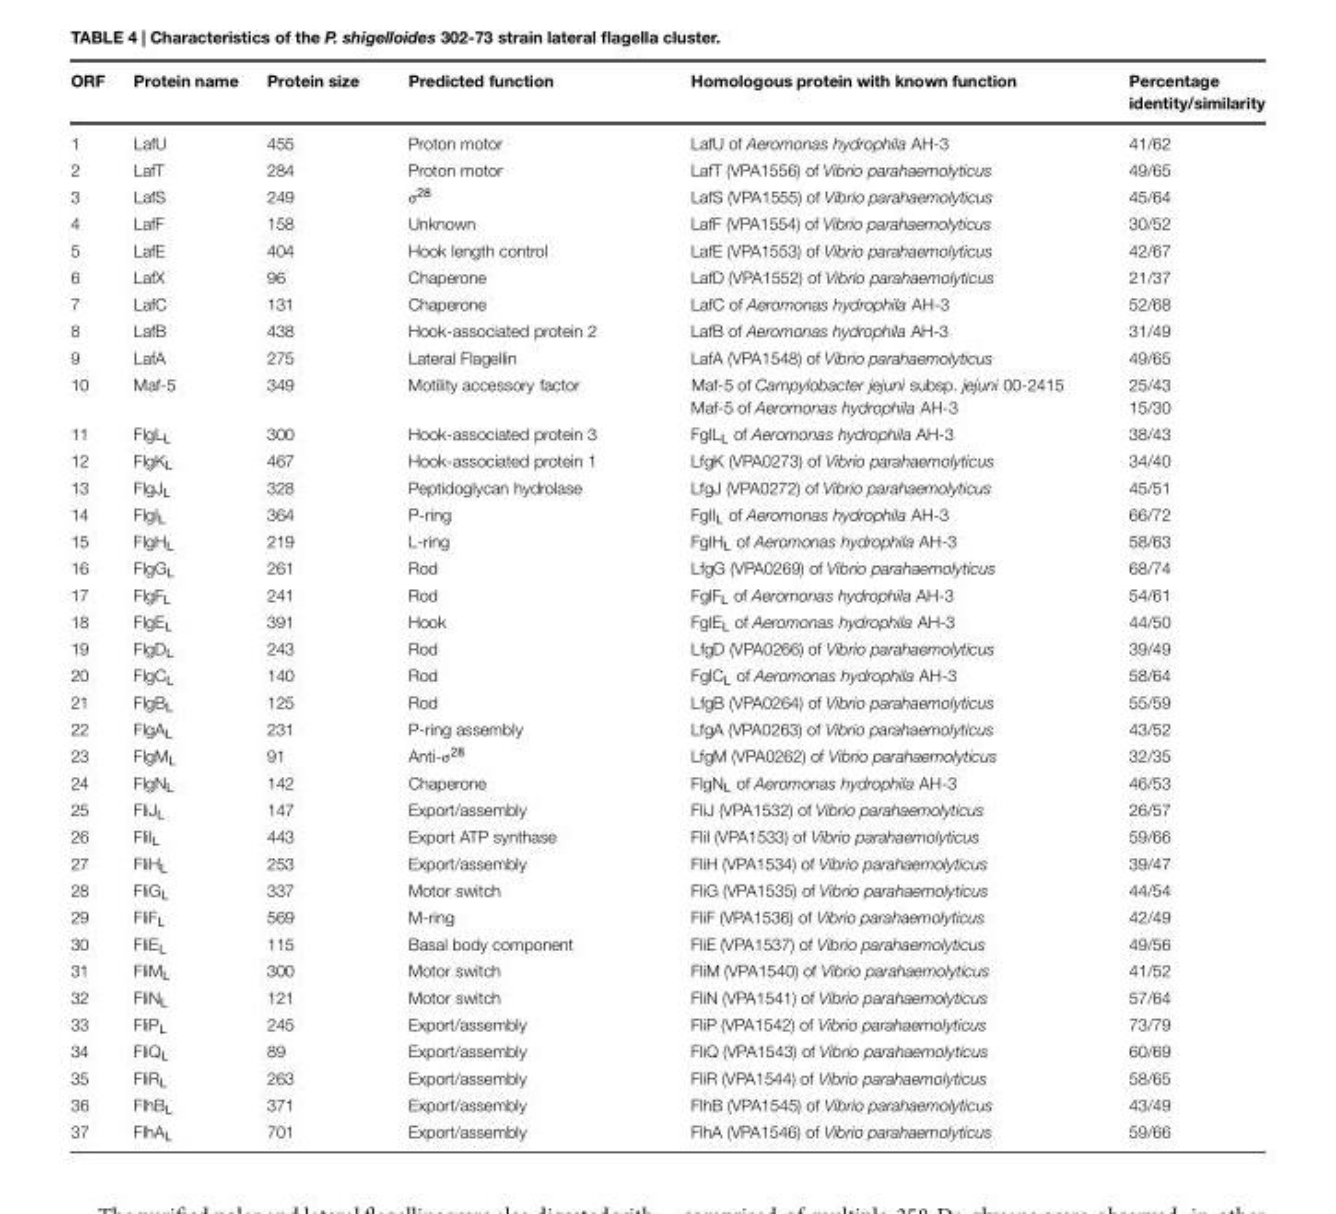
<table><thead><tr><td>ORF</td><td>Protein name</td><td>Protein size</td><td>Predicted function</td><td>Homologous protein with known function</td><td>Percentage identity/similarity</td></tr></thead><tbody><tr><td>1</td><td>LafU</td><td>455</td><td>Proton motor</td><td>LafU of Aeromonas hydrophila AH-3</td><td>41/62</td></tr><tr><td>2</td><td>LafT</td><td>284</td><td>Proton motor</td><td>LafT (VPA1556) of Vibrio parahaemolyticus</td><td>49/65</td></tr><tr><td>3</td><td>LafS</td><td>249</td><td>σ<sup>28</sup></td><td>LafS (VPA1555) of Vibrio parahaemolyticus</td><td>45/64</td></tr><tr><td>4</td><td>LafF</td><td>158</td><td>Unknown</td><td>LafF (VPA1554) of Vibrio parahaemolyticus</td><td>30/52</td></tr><tr><td>5</td><td>LafE</td><td>404</td><td>Hook length control</td><td>LafE (VPA1553) of Vibrio parahaemolyticus</td><td>42/67</td></tr><tr><td>6</td><td>LafX</td><td>96</td><td>Chaperone</td><td>LafD (VPA1552) of Vibrio parahaemolyticus</td><td>21/37</td></tr><tr><td>7</td><td>LafC</td><td>131</td><td>Chaperone</td><td>LafC of Aeromonas hydrophila AH-3</td><td>52/68</td></tr><tr><td>8</td><td>LafB</td><td>438</td><td>Hook-associated protein 2</td><td>LafB of Aeromonas hydrophila AH-3</td><td>31/49</td></tr><tr><td>9</td><td>LafA</td><td>275</td><td>Lateral Flagellin</td><td>LafA (VPA1548) of Vibrio parahaemolyticus</td><td>49/65</td></tr><tr><td>10</td><td>Maf-5</td><td>349</td><td>Motility accessory factor</td><td>Maf-5 of Campylobacter jejuni subsp. jejuni 00-2415 Maf-5 of Aeromonas hydrophila AH-3</td><td>25/43 15/30</td></tr><tr><td>11</td><td>FlgL<sub>L</sub></td><td>300</td><td>Hook-associated protein 3</td><td>FglL<sub>L</sub> of Aeromonas hydrophila AH-3</td><td>38/43</td></tr><tr><td>12</td><td>FlgK<sub>L</sub></td><td>467</td><td>Hook-associated protein 1</td><td>LfgK (VPA0273) of Vibrio parahaemolyticus</td><td>34/40</td></tr><tr><td>13</td><td>FlgJ<sub>L</sub></td><td>328</td><td>Peptidoglycan hydrolase</td><td>LfgJ (VPA0272) of Vibrio parahaemolyticus</td><td>45/51</td></tr><tr><td>14</td><td>FlgI<sub>L</sub></td><td>364</td><td>P-ring</td><td>FglI<sub>L</sub> of Aeromonas hydrophila AH-3</td><td>66/72</td></tr><tr><td>15</td><td>FlgH<sub>L</sub></td><td>219</td><td>L-ring</td><td>FglH<sub>L</sub> of Aeromonas hydrophila AH-3</td><td>58/63</td></tr><tr><td>16</td><td>FlgG<sub>L</sub></td><td>261</td><td>Rod</td><td>LfgG (VPA0269) of Vibrio parahaemolyticus</td><td>68/74</td></tr><tr><td>17</td><td>FlgF<sub>L</sub></td><td>241</td><td>Rod</td><td>FglF<sub>L</sub> of Aeromonas hydrophila AH-3</td><td>54/61</td></tr><tr><td>18</td><td>FlgE<sub>L</sub></td><td>391</td><td>Hook</td><td>FglE<sub>L</sub> of Aeromonas hydrophila AH-3</td><td>44/50</td></tr><tr><td>19</td><td>FlgD<sub>L</sub></td><td>243</td><td>Rod</td><td>LfgD (VPA0266) of Vibrio parahaemolyticus</td><td>39/49</td></tr><tr><td>20</td><td>FlgC<sub>L</sub></td><td>140</td><td>Rod</td><td>FglC<sub>L</sub> of Aeromonas hydrophila AH-3</td><td>58/64</td></tr><tr><td>21</td><td>FlgB<sub>L</sub></td><td>125</td><td>Rod</td><td>LfgB (VPA0264) of Vibrio parahaemolyticus</td><td>55/59</td></tr><tr><td>22</td><td>FlgA<sub>L</sub></td><td>231</td><td>P-ring assembly</td><td>LfgA (VPA0263) of Vibrio parahaemolyticus</td><td>43/52</td></tr><tr><td>23</td><td>FlgM<sub>L</sub></td><td>91</td><td>Anti-σ<sup>28</sup></td><td>LfgM (VPA0262) of Vibrio parahaemolyticus</td><td>32/35</td></tr><tr><td>24</td><td>FlgN<sub>L</sub></td><td>142</td><td>Chaperone</td><td>FlgN<sub>L</sub> of Aeromonas hydrophila AH-3</td><td>46/53</td></tr><tr><td>25</td><td>FliJ<sub>L</sub></td><td>147</td><td>Export/assembly</td><td>FliJ (VPA1532) of Vibrio parahaemolyticus</td><td>26/57</td></tr><tr><td>26</td><td>FliI<sub>L</sub></td><td>443</td><td>Export ATP synthase</td><td>FliI (VPA1533) of Vibrio parahaemolyticus</td><td>59/66</td></tr><tr><td>27</td><td>FliH<sub>L</sub></td><td>253</td><td>Export/assembly</td><td>FliH (VPA1534) of Vibrio parahaemolyticus</td><td>39/47</td></tr><tr><td>28</td><td>FliG<sub>L</sub></td><td>337</td><td>Motor switch</td><td>FliG (VPA1535) of Vibrio parahaemolyticus</td><td>44/54</td></tr><tr><td>29</td><td>FliF<sub>L</sub></td><td>569</td><td>M-ring</td><td>FliF (VPA1536) of Vibrio parahaemolyticus</td><td>42/49</td></tr><tr><td>30</td><td>FliE<sub>L</sub></td><td>115</td><td>Basal body component</td><td>FliE (VPA1537) of Vibrio parahaemolyticus</td><td>49/56</td></tr><tr><td>31</td><td>FliM<sub>L</sub></td><td>300</td><td>Motor switch</td><td>FliM (VPA1540) of Vibrio parahaemolyticus</td><td>41/52</td></tr><tr><td>32</td><td>FliN<sub>L</sub></td><td>121</td><td>Motor switch</td><td>FliN (VPA1541) of Vibrio parahaemolyticus</td><td>57/64</td></tr><tr><td>33</td><td>FliP<sub>L</sub></td><td>245</td><td>Export/assembly</td><td>FliP (VPA1542) of Vibrio parahaemolyticus</td><td>73/79</td></tr><tr><td>34</td><td>FliQ<sub>L</sub></td><td>89</td><td>Export/assembly</td><td>FliQ (VPA1543) of Vibrio parahaemolyticus</td><td>60/69</td></tr><tr><td>35</td><td>FliR<sub>L</sub></td><td>263</td><td>Export/assembly</td><td>FliR (VPA1544) of Vibrio parahaemolyticus</td><td>58/65</td></tr><tr><td>36</td><td>FlhB<sub>L</sub></td><td>371</td><td>Export/assembly</td><td>FlhB (VPA1545) of Vibrio parahaemolyticus</td><td>43/49</td></tr><tr><td>37</td><td>FlhA<sub>L</sub></td><td>701</td><td>Export/assembly</td><td>FlhA (VPA1546) of Vibrio parahaemolyticus</td><td>59/66</td></tr></tbody></table>